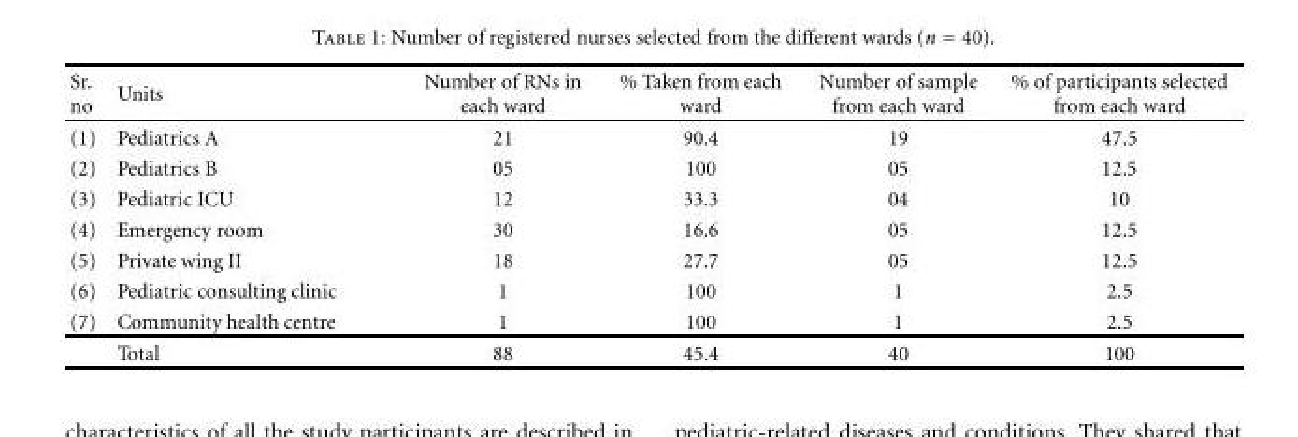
<table><thead><tr><td>Sr. no</td><td>Units</td><td>Number of RNs in each ward</td><td>% Taken from each ward</td><td>Number of sample from each ward</td><td>% of participants selected from each ward</td></tr></thead><tbody><tr><td>(1)</td><td>Pediatrics A</td><td>21</td><td>90.4</td><td>19</td><td>47.5</td></tr><tr><td>(2)</td><td>Pediatrics B</td><td>05</td><td>100</td><td>05</td><td>12.5</td></tr><tr><td>(3)</td><td>Pediatric ICU</td><td>12</td><td>33.3</td><td>04</td><td>10</td></tr><tr><td>(4)</td><td>Emergency room</td><td>30</td><td>16.6</td><td>05</td><td>12.5</td></tr><tr><td>(5)</td><td>Private wing II</td><td>18</td><td>27.7</td><td>05</td><td>12.5</td></tr><tr><td>(6)</td><td>Pediatric consulting clinic</td><td>1</td><td>100</td><td>1</td><td>2.5</td></tr><tr><td rowspan="2">(7)</td><td>Community health centre</td><td>1</td><td>100</td><td>1</td><td>2.5</td></tr><tr><td>Total</td><td>88</td><td>45.4</td><td>40</td><td>100</td></tr></tbody></table>